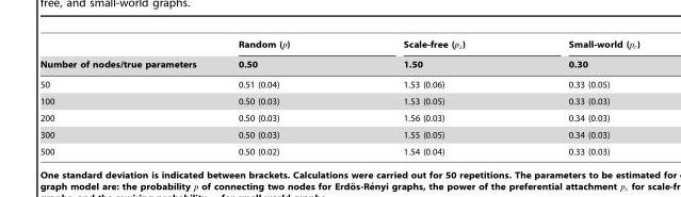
<table><thead><tr><td rowspan="2">Number of nodes/true parameters</td><td rowspan="2">Random (p) 0.50</td><td rowspan="2">Scale-free (ps) 1.50</td><td rowspan="2">Small-world (pr) 0.30</td></tr><tr></tr></thead><tbody><tr><td>50</td><td>0.51 (0.04)</td><td>1.53 (0.06)</td><td>0.33 (0.05)</td></tr><tr><td>100</td><td>0.50 (0.03)</td><td>1.53 (0.05)</td><td>0.33 (0.03)</td></tr><tr><td>200</td><td>0.50 (0.03)</td><td>1.56 (0.03)</td><td>0.34 (0.03)</td></tr><tr><td>300</td><td>0.50 (0.03)</td><td>1.55 (0.05)</td><td>0.34 (0.03)</td></tr><tr><td>500</td><td>0.50 (0.02)</td><td>1.54 (0.04)</td><td>0.33 (0.03)</td></tr></tbody></table>